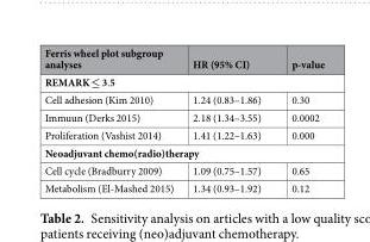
<table><thead><tr><td>Ferris wheel plot subgroup analyses</td><td>HR (95% CI)</td><td>p-value</td></tr></thead><tbody><tr><td colspan="3">REMARK ≤ 3.5</td></tr><tr><td>Cell adhesion (Kim 2010)</td><td>1.24 (0.83–1.86)</td><td>0.30</td></tr><tr><td>Immuun (Derks 2015)</td><td>2.18 (1.34–3.55)</td><td>0.0002</td></tr><tr><td>Proliferation (Vashist 2014)</td><td>1.41 (1.22–1.63)</td><td>0.000</td></tr><tr><td colspan="3">Neoadjuvant chemo(radio)therapy</td></tr><tr><td>Cell cycle (Bradburry 2009)</td><td>1.09 (0.75–1.57)</td><td>0.65</td></tr><tr><td>Metabolism (El-Mashed 2015)</td><td>1.34 (0.93–1.92)</td><td>0.12</td></tr></tbody></table>